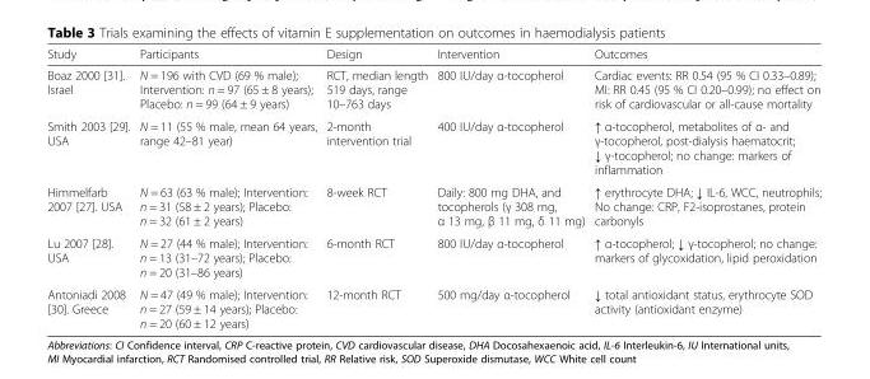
<table><thead><tr><td>Study</td><td>Participants</td><td>Design</td><td>Intervention</td><td>Outcomes</td></tr></thead><tbody><tr><td>Boaz 2000 [31]. Israel</td><td>N = 196 with CVD (69 % male); Intervention: n = 97 (65 ± 8 years); Placebo: n = 99 (64 ± 9 years)</td><td>RCT, median length 519 days, range 10–763 days</td><td>800 IU/day α-tocopherol</td><td>Cardiac events: RR 0.54 (95 % CI 0.33–0.89); MI: RR 0.45 (95 % CI 0.20–0.99); no effect on risk of cardiovascular or all-cause mortality</td></tr><tr><td>Smith 2003 [29]. USA</td><td>N = 11 (55 % male, mean 64 years, range 42–81 year)</td><td>2-month intervention trial</td><td>400 IU/day α-tocopherol</td><td>↑ α-tocopherol, metabolites of α- and γ-tocopherol, post-dialysis haematocrit; ↓ γ-tocopherol; no change: markers of inflammation</td></tr><tr><td>Himmelfarb 2007 [27]. USA</td><td>N = 63 (63 % male); Intervention: n = 31 (58 ± 2 years); Placebo: n = 32 (61 ± 2 years)</td><td>8-week RCT</td><td>Daily: 800 mg DHA, and tocopherols (γ 308 mg, α 13 mg, β 11 mg, δ 11 mg)</td><td>↑ erythrocyte DHA; ↓ IL-6, WCC, neutrophils; No change: CRP, F2-isoprostanes, protein carbonyls</td></tr><tr><td>Lu 2007 [28]. USA</td><td>N = 27 (44 % male); Intervention: n = 13 (31–72 years); Placebo: n = 20 (31–86 years)</td><td>6-month RCT</td><td>800 IU/day α-tocopherol</td><td>↑ α-tocopherol; ↓ γ-tocopherol; no change: markers of glycoxidation, lipid peroxidation</td></tr><tr><td>Antoniadi 2008 [30]. Greece</td><td>N = 47 (49 % male); Intervention: n = 27 (59 ± 14 years); Placebo: n = 20 (60 ± 12 years)</td><td>12-month RCT</td><td>500 mg/day α-tocopherol</td><td>↓ total antioxidant status, erythrocyte SOD activity (antioxidant enzyme)</td></tr></tbody></table>